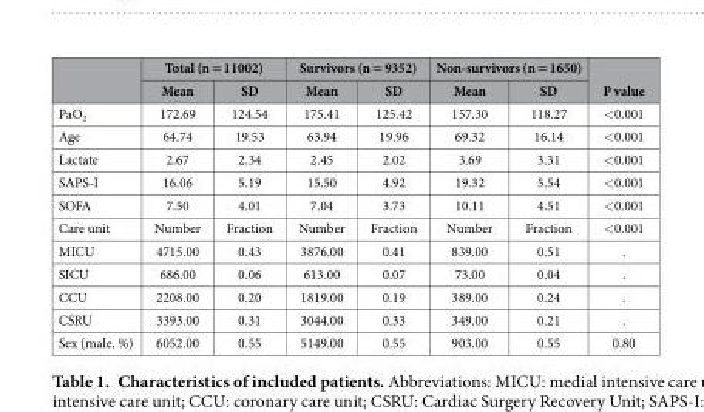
<table><thead><tr><td rowspan="2"></td><td colspan="2">Total (n = 11002)</td><td colspan="2">Survivors (n = 9352)</td><td colspan="2">Non-survivors (n = 1650)</td><td rowspan="2">P value</td></tr><tr><td>Mean</td><td>SD</td><td>Mean</td><td>SD</td><td>Mean</td><td>SD</td></tr></thead><tbody><tr><td>PaO<sub>2</sub></td><td>172.69</td><td>124.54</td><td>175.41</td><td>125.42</td><td>157.30</td><td>118.27</td><td>&lt; 0.001</td></tr><tr><td>Age</td><td>64.74</td><td>19.53</td><td>63.94</td><td>19.96</td><td>69.32</td><td>16.14</td><td>&lt; 0.001</td></tr><tr><td>Lactate</td><td>2.67</td><td>2.34</td><td>2.45</td><td>2.02</td><td>3.69</td><td>3.31</td><td>&lt; 0.001</td></tr><tr><td>SAPS-I</td><td>16.06</td><td>5.19</td><td>15.50</td><td>4.92</td><td>19.32</td><td>5.54</td><td>&lt; 0.001</td></tr><tr><td>SOFA</td><td>7.50</td><td>4.01</td><td>7.04</td><td>3.73</td><td>10.11</td><td>4.51</td><td>&lt; 0.001</td></tr><tr><td>Care unit</td><td>Number</td><td>Fraction</td><td>Number</td><td>Fraction</td><td>Number</td><td>Fraction</td><td>&lt; 0.001</td></tr><tr><td>MICU</td><td>4715.00</td><td>0.43</td><td>3876.00</td><td>0.41</td><td>839.00</td><td>0.51</td><td>.</td></tr><tr><td>SICU</td><td>686.00</td><td>0.06</td><td>613.00</td><td>0.07</td><td>73.00</td><td>0.04</td><td>.</td></tr><tr><td>CCU</td><td>2208.00</td><td>0.20</td><td>1819.00</td><td>0.19</td><td>389.00</td><td>0.24</td><td>.</td></tr><tr><td>CSRU</td><td>3393.00</td><td>0.31</td><td>3044.00</td><td>0.33</td><td>349.00</td><td>0.21</td><td>.</td></tr><tr><td>Sex (male, %)</td><td>6052.00</td><td>0.55</td><td>5149.00</td><td>0.55</td><td>903.00</td><td>0.55</td><td>0.80</td></tr></tbody></table>